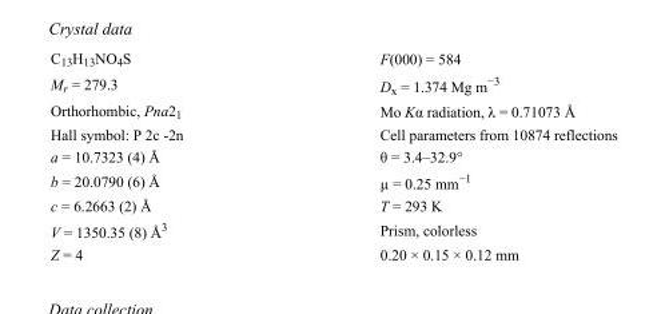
<table><tbody><tr><td>C<sub>13</sub>H<sub>13</sub>NO<sub>4</sub>S</td><td>F(000) = 584</td></tr><tr><td>M<sub>r</sub> = 279.3</td><td>D<sub>x</sub> = 1.374 Mg m<sup>−3</sup></td></tr><tr><td>Orthorhombic, Pna2<sub>1</sub></td><td>Mo Kα radiation, λ = 0.71073 Å</td></tr><tr><td>Hall symbol: P 2c -2n</td><td>Cell parameters from 10874 reflections</td></tr><tr><td>a = 10.7323 (4) Å</td><td>θ = 3.4–32.9°</td></tr><tr><td>b = 20.0790 (6) Å</td><td>µ = 0.25 mm<sup>−1</sup></td></tr><tr><td>c = 6.2663 (2) Å</td><td>T = 293 K</td></tr><tr><td>V = 1350.35 (8) Å<sup>3</sup></td><td>Prism, colorless</td></tr><tr><td>Z = 4</td><td>0.20 × 0.15 × 0.12 mm</td></tr></tbody></table>